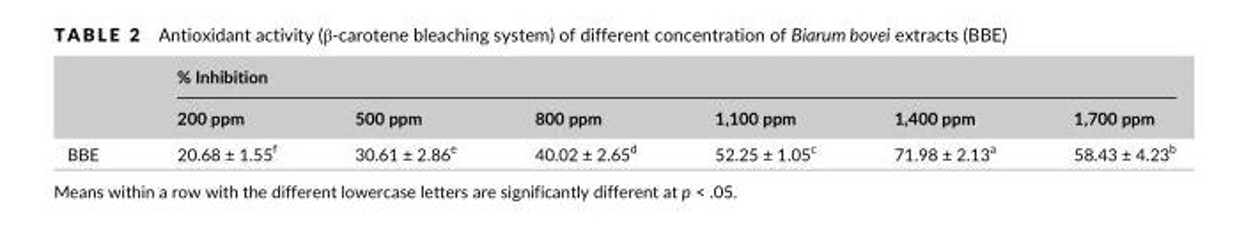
<table><thead><tr><td rowspan="2"></td><td colspan="6">% Inhibition</td></tr><tr><td>200 ppm</td><td>500 ppm</td><td>800 ppm</td><td>1,100 ppm</td><td>1,400 ppm</td><td>1,700 ppm</td></tr></thead><tbody><tr><td>BBE</td><td>20.68 ± 1.55<sup>f</sup></td><td>30.61 ± 2.86<sup>e</sup></td><td>40.02 ± 2.65<sup>d</sup></td><td>52.25 ± 1.05<sup>c</sup></td><td>71.98 ± 2.13<sup>a</sup></td><td>58.43 ± 4.23<sup>b</sup></td></tr></tbody></table>